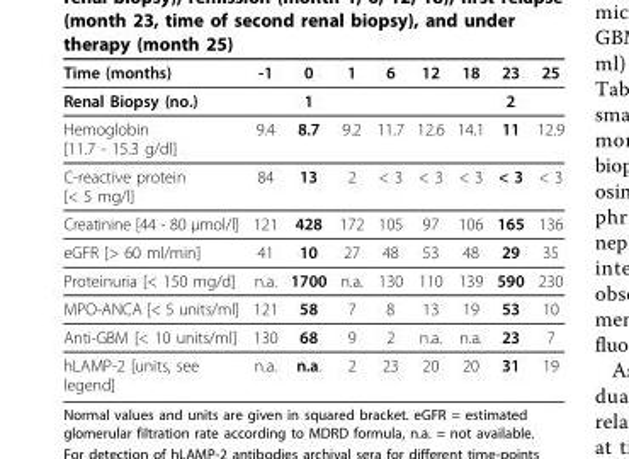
<table><thead><tr><td>Time (months)</td><td>-1</td><td>0</td><td>1</td><td>6</td><td>12</td><td>18</td><td>23</td><td>25</td></tr></thead><tbody><tr><td>Renal Biopsy (no.)</td><td></td><td>1</td><td></td><td></td><td></td><td></td><td>2</td><td></td></tr><tr><td>Hemoglobin [11.7 - 15.3 g/dl]</td><td>9.4</td><td>8.7</td><td>9.2</td><td>11.7</td><td>12.6</td><td>14.1</td><td>11</td><td>12.9</td></tr><tr><td>C-reactive protein [&lt; 5 mg/l]</td><td>84</td><td>13</td><td>2</td><td>&lt; 3</td><td>&lt; 3</td><td>&lt; 3</td><td>&lt; 3</td><td>&lt; 3</td></tr><tr><td>Creatinine [44 - 80 μmol/l]</td><td>121</td><td>428</td><td>172</td><td>105</td><td>97</td><td>106</td><td>165</td><td>136</td></tr><tr><td>eGFR [&gt; 60 ml/min]</td><td>41</td><td>10</td><td>27</td><td>48</td><td>53</td><td>48</td><td>29</td><td>35</td></tr><tr><td>Proteinuria [&lt; 150 mg/d]</td><td>n.a.</td><td>1700</td><td>n.a.</td><td>130</td><td>110</td><td>139</td><td>590</td><td>230</td></tr><tr><td>MPO-ANCA [&lt; 5 units/ml]</td><td>121</td><td>58</td><td>7</td><td>8</td><td>13</td><td>19</td><td>53</td><td>10</td></tr><tr><td>Anti-GBM [&lt; 10 units/ml]</td><td>130</td><td>68</td><td>9</td><td>2</td><td>n.a.</td><td>n.a.</td><td>23</td><td>7</td></tr><tr><td>hLAMP-2 [units, see legend]</td><td>n.a.</td><td>n.a.</td><td>2</td><td>23</td><td>20</td><td>20</td><td>31</td><td>19</td></tr></tbody></table>